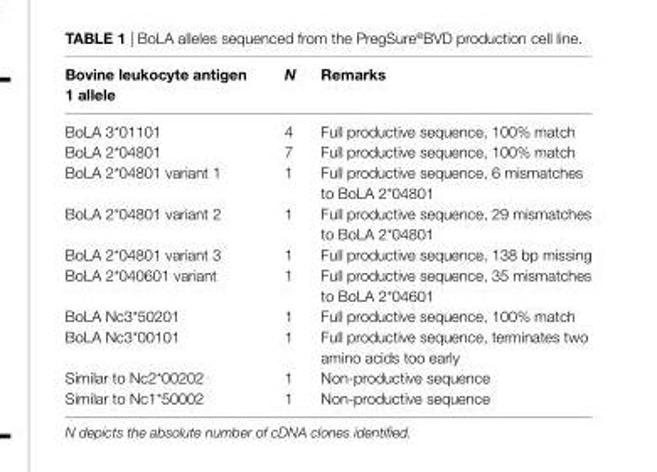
<table><thead><tr><td>Bovine leukocyte antigen 1 allele</td><td>N</td><td>remarks</td></tr></thead><tbody><tr><td>BoLA 3*01101</td><td>4</td><td>Full productive sequence, 100% match</td></tr><tr><td>BoLA 2*04801</td><td>7</td><td>Full productive sequence, 100% match</td></tr><tr><td>BoLA 2*04801 variant 1</td><td>1</td><td>Full productive sequence, 6 mismatches to BoLA 2*04801</td></tr><tr><td>BoLA 2*04801 variant 2</td><td>1</td><td>Full productive sequence, 29 mismatches to BoLA 2*04801</td></tr><tr><td>BoLA 2*04801 variant 3</td><td>1</td><td>Full productive sequence, 138 bp missing</td></tr><tr><td>BoLA 2*040601 variant</td><td>1</td><td>Full productive sequence, 35 mismatches to BoLA 2*04601</td></tr><tr><td>BoLA Nc3*50201</td><td>1</td><td>Full productive sequence, 100% match</td></tr><tr><td>BoLA Nc3*00101</td><td>1</td><td>Full productive sequence, terminates two amino acids too early</td></tr><tr><td>Similar to Nc2*00202</td><td>1</td><td>Non-productive sequence</td></tr><tr><td>Similar to Nc1*50002</td><td>1</td><td>Non-productive sequence</td></tr></tbody></table>